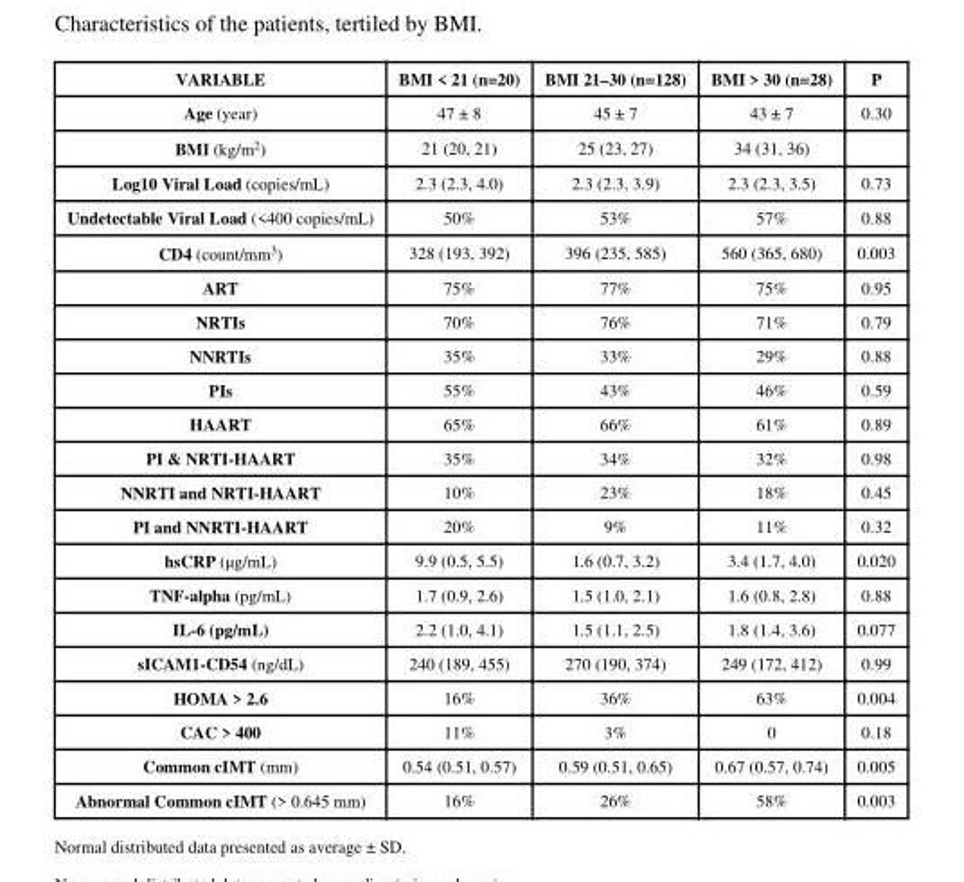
<table><thead><tr><td>VARIABLE</td><td>BMI &lt; 21 (n=20)</td><td>BMI 21–30 (n=128)</td><td>BMI &gt; 30 (n=28)</td><td>P</td></tr></thead><tbody><tr><td>Age (year)</td><td>47 ± 8</td><td>45 ± 7</td><td>43 ± 7</td><td>0.30</td></tr><tr><td>BMI (kg/m<sup>2</sup>)</td><td>21 (20, 21)</td><td>25 (23, 27)</td><td>34 (31, 36)</td><td></td></tr><tr><td>Log10 Viral Load (copies/mL)</td><td>2.3 (2.3, 4.0)</td><td>2.3 (2.3, 3.9)</td><td>2.3 (2.3, 3.5)</td><td>0.73</td></tr><tr><td>Undetectable Viral Load (&lt;400 copies/mL)</td><td>50%</td><td>53%</td><td>57%</td><td>0.88</td></tr><tr><td>CD4 (count/mm<sup>3</sup>)</td><td>328 (193, 392)</td><td>396 (235, 585)</td><td>560 (365, 680)</td><td>0.003</td></tr><tr><td>ART</td><td>75%</td><td>77%</td><td>75%</td><td>0.95</td></tr><tr><td>NRTIs</td><td>70%</td><td>76%</td><td>71%</td><td>0.79</td></tr><tr><td>NNRTIs</td><td>35%</td><td>33%</td><td>29%</td><td>0.88</td></tr><tr><td>PIs</td><td>55%</td><td>43%</td><td>46%</td><td>0.59</td></tr><tr><td>HAART</td><td>65%</td><td>66%</td><td>61%</td><td>0.89</td></tr><tr><td>PI &amp; NRTI-HAART</td><td>35%</td><td>34%</td><td>32%</td><td>0.98</td></tr><tr><td>NNRTI and NRTI-HAART</td><td>10%</td><td>23%</td><td>18%</td><td>0.45</td></tr><tr><td>PI and NNRTI-HAART</td><td>20%</td><td>9%</td><td>11%</td><td>0.32</td></tr><tr><td>hsCRP (μg/mL)</td><td>9.9 (0.5, 5.5)</td><td>1.6 (0.7, 3.2)</td><td>3.4 (1.7, 4.0)</td><td>0.020</td></tr><tr><td>TNF-alpha (pg/mL)</td><td>1.7 (0.9, 2.6)</td><td>1.5 (1.0, 2.1)</td><td>1.6 (0.8, 2.8)</td><td>0.88</td></tr><tr><td>IL-6 (pg/mL)</td><td>2.2 (1.0, 4.1)</td><td>1.5 (1.1, 2.5)</td><td>1.8 (1.4, 3.6)</td><td>0.077</td></tr><tr><td>sICAM1-CD54 (ng/dL)</td><td>240 (189, 455)</td><td>270 (190, 374)</td><td>249 (172, 412)</td><td>0.99</td></tr><tr><td>HOMA &gt; 2.6</td><td>16%</td><td>36%</td><td>63%</td><td>0.004</td></tr><tr><td>CAC &gt; 400</td><td>11%</td><td>3%</td><td>0</td><td>0.18</td></tr><tr><td>Common cIMT (mm)</td><td>0.54 (0.51, 0.57)</td><td>0.59 (0.51, 0.65)</td><td>0.67 (0.57, 0.74)</td><td>0.005</td></tr><tr><td>Abnormal Common cIMT (&gt; 0.645 mm)</td><td>16%</td><td>26%</td><td>58%</td><td>0.003</td></tr></tbody></table>